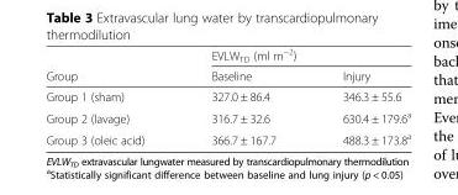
<table><thead><tr><td rowspan="2">Group</td><td colspan="2">EVLW<sub>TD</sub> (ml m<sup>−2</sup>)</td></tr><tr><td>Baseline</td><td>Injury</td></tr></thead><tbody><tr><td>Group 1 (sham)</td><td>327.0 ± 86.4</td><td>346.3 ± 55.6</td></tr><tr><td>Group 2 (lavage)</td><td>316.7 ± 32.6</td><td>630.4 ± 179.6<sup>a</sup></td></tr><tr><td>Group 3 (oleic acid)</td><td>366.7 ± 167.7</td><td>488.3 ± 173.8<sup>a</sup></td></tr></tbody></table>